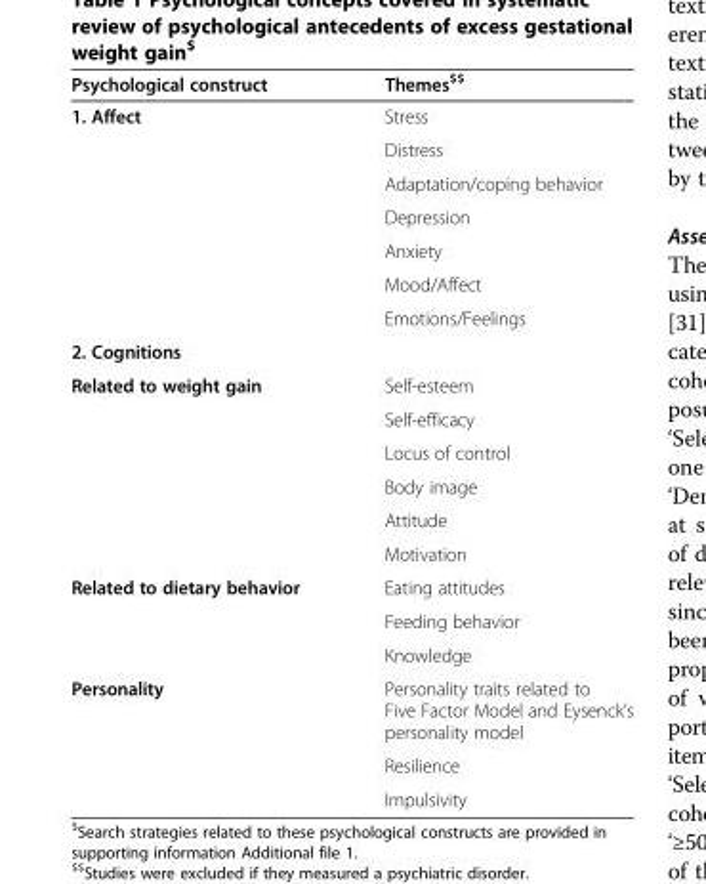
<table><thead><tr><td>Psychological construct</td><td>Themes<sup>$$</sup></td></tr></thead><tbody><tr><td rowspan="7">1. Affect</td><td>Stress</td></tr><tr><td>Distress</td></tr><tr><td>Adaptation/coping behavior</td></tr><tr><td>Depression</td></tr><tr><td>Anxiety</td></tr><tr><td>Mood/Affect</td></tr><tr><td>Emotions/Feelings</td></tr><tr><td colspan="2">2. Cognitions</td></tr><tr><td rowspan="6">Related to weight gain</td><td>Self-esteem</td></tr><tr><td>Self-efficacy</td></tr><tr><td>Locus of control</td></tr><tr><td>Body image</td></tr><tr><td>Attitude</td></tr><tr><td>Motivation</td></tr><tr><td rowspan="3">Related to dietary behavior</td><td>Eating attitudes</td></tr><tr><td>Feeding behavior</td></tr><tr><td>Knowledge</td></tr><tr><td rowspan="3">Personality</td><td>Personality traits related to Five Factor Model and Eysenck’s personality model</td></tr><tr><td>Resilience</td></tr><tr><td>Impulsivity</td></tr></tbody></table>